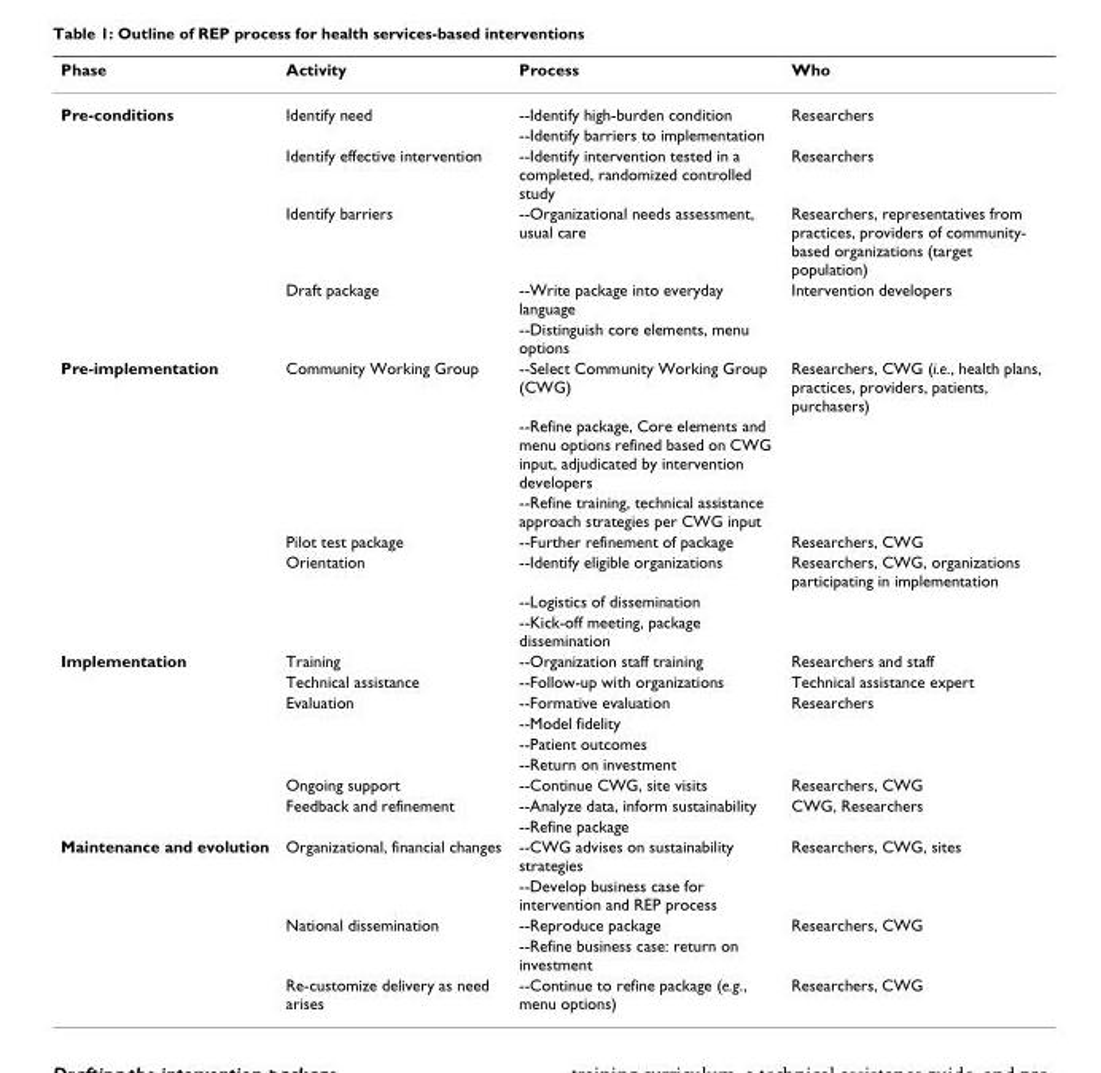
<table><thead><tr><td>Phase</td><td>Activity</td><td>Process</td><td>Who</td></tr></thead><tbody><tr><td rowspan="6">Pre-conditions</td><td>Identify need</td><td>--Identify high-burden condition</td><td>Researchers</td></tr><tr><td></td><td>--Identify barriers to implementation</td><td></td></tr><tr><td>Identify effective intervention</td><td>--Identify intervention tested in a completed, randomized controlled study</td><td>Researchers</td></tr><tr><td>Identify barriers</td><td>--Organizational needs assessment, usual care</td><td>Researchers, representatives from practices, providers of community- based organizations (target population)</td></tr><tr><td>Draft package</td><td>--Write package into everyday language</td><td>Intervention developers</td></tr><tr><td></td><td>--Distinguish core elements, menu options</td><td></td></tr><tr><td rowspan="7">Pre-implementation</td><td>Community Working Group</td><td>--Select Community Working Group (CWG)</td><td>Researchers, CWG (i.e., health plans, practices, providers, patients, purchasers)</td></tr><tr><td></td><td>--Refine package, Core elements and menu options refined based on CWG input, adjudicated by intervention developers</td><td></td></tr><tr><td></td><td>--Refine training, technical assistance approach strategies per CWG input</td><td></td></tr><tr><td>Pilot test package</td><td>--Further refinement of package</td><td>Researchers, CWG</td></tr><tr><td>Orientation</td><td>--Identify eligible organizations</td><td>Researchers, CWG, organizations participating in implementation</td></tr><tr><td></td><td>--Logistics of dissemination</td><td></td></tr><tr><td></td><td>--Kick-off meeting, package dissemination</td><td></td></tr><tr><td rowspan="9">Implementation</td><td>Training</td><td>--Organization staff training</td><td>Researchers and staff</td></tr><tr><td>Technical assistance</td><td>--Follow-up with organizations</td><td>Technical assistance expert</td></tr><tr><td>Evaluation</td><td>--Formative evaluation</td><td>Researchers</td></tr><tr><td></td><td>--Model fidelity</td><td></td></tr><tr><td></td><td>--Patient outcomes</td><td></td></tr><tr><td></td><td>--Return on investment</td><td></td></tr><tr><td>Ongoing support</td><td>--Continue CWG, site visits</td><td>Researchers, CWG</td></tr><tr><td>Feedback and refinement</td><td>--Analyze data, inform sustainability</td><td>CWG, Researchers</td></tr><tr><td></td><td>--Refine package</td><td></td></tr><tr><td rowspan="5">Maintenance and evolution</td><td>Organizational, financial changes</td><td>--CWG advises on sustainability strategies</td><td>Researchers, CWG, sites</td></tr><tr><td></td><td>--Develop business case for intervention and REP process</td><td></td></tr><tr><td>National dissemination</td><td>--Reproduce package</td><td>Researchers, CWG</td></tr><tr><td></td><td>--Refine business case: return on investment</td><td></td></tr><tr><td>Re-customize delivery as need arises</td><td>--Continue to refine package (e.g., menu options)</td><td>Researchers, CWG</td></tr></tbody></table>